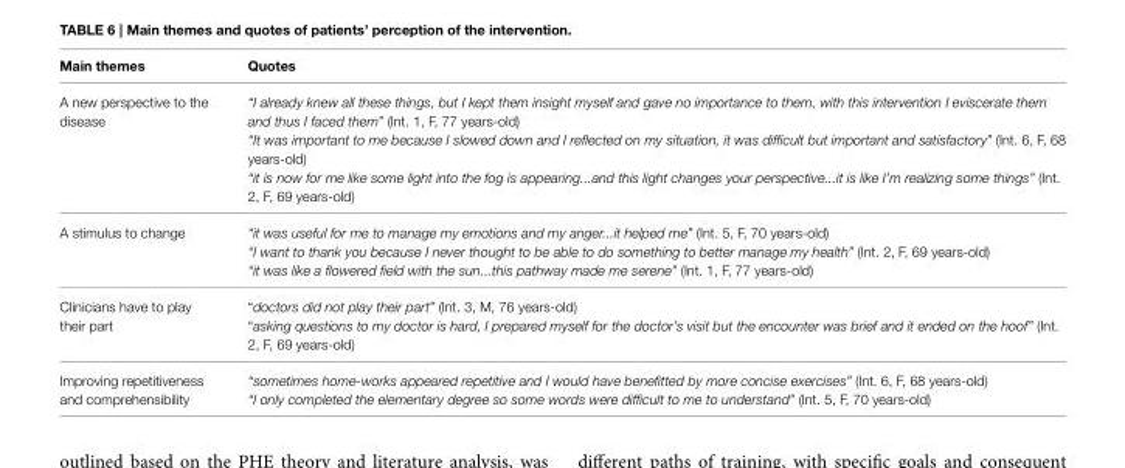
<table><thead><tr><td>Main themes</td><td>Quotes</td></tr></thead><tbody><tr><td>A new perspective to the disease</td><td>“I already knew all these things, but I kept them insight myself and gave no importance to them, with this intervention I eviscerate them and thus I faced them” (Int. 1, F, 77 years-old) “It was important to me because I slowed down and I reflected on my situation, it was difficult but important and satisfactory” (Int. 6, F, 68 years-old) “it is now for me like some light into the fog is appearing...and this light changes your perspective...it is like I’m realizing some things” (Int. 2, F, 69 years-old)</td></tr><tr><td>A stimulus to change</td><td>“it was useful for me to manage my emotions and my anger...it helped me” (Int. 5, F, 70 years-old) “I want to thank you because I never thought to be able to do something to better manage my health” (Int. 2, F, 69 years-old) “it was like a flowered field with the sun...this pathway made me serene” (Int. 1, F, 77 years-old)</td></tr><tr><td>Clinicians have to play their part</td><td>“doctors did not play their part” (Int. 3, M, 76 years-old) “asking questions to my doctor is hard, I prepared myself for the doctor’s visit but the encounter was brief and it ended on the hoof” (Int. 2, F, 69 years-old)</td></tr><tr><td>Improving repetitiveness and comprehensibility</td><td>“sometimes home-works appeared repetitive and I would have benefitted by more concise exercises” (Int. 6, F, 68 years-old) “I only completed the elementary degree so some words were difficult to me to understand” (Int. 5, F, 70 years-old)</td></tr></tbody></table>